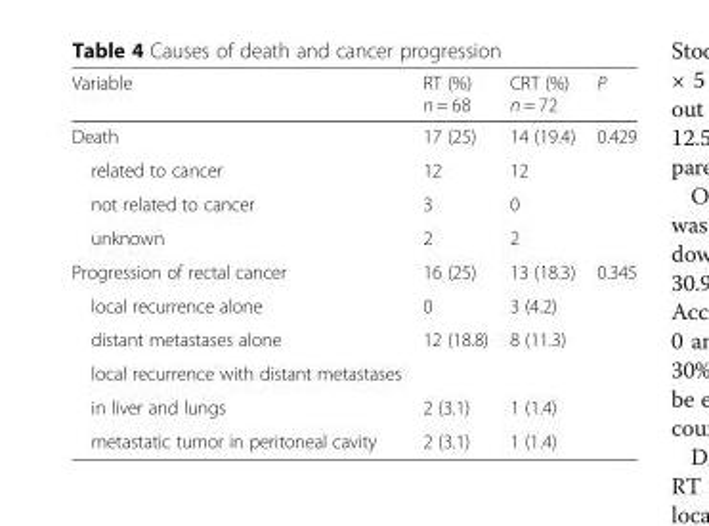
<table><thead><tr><td>Variable</td><td>RT (%) n = 68</td><td>CRT (%) n = 72</td><td>P</td></tr></thead><tbody><tr><td>Death</td><td>17 (25)</td><td>14 (19.4)</td><td>0.429</td></tr><tr><td>related to cancer</td><td>12</td><td>12</td><td></td></tr><tr><td>not related to cancer</td><td>3</td><td>0</td><td></td></tr><tr><td>unknown</td><td>2</td><td>2</td><td></td></tr><tr><td>Progression of rectal cancer</td><td>16 (25)</td><td>13 (18.3)</td><td>0.345</td></tr><tr><td>local recurrence alone</td><td>0</td><td>3 (4.2)</td><td></td></tr><tr><td>distant metastases alone</td><td>12 (18.8)</td><td>8 (11.3)</td><td></td></tr><tr><td colspan="4">local recurrence with distant metastases</td></tr><tr><td>in liver and lungs</td><td>2 (3.1)</td><td>1 (1.4)</td><td></td></tr><tr><td>metastatic tumor in peritoneal cavity</td><td>2 (3.1)</td><td>1 (1.4)</td><td></td></tr></tbody></table>